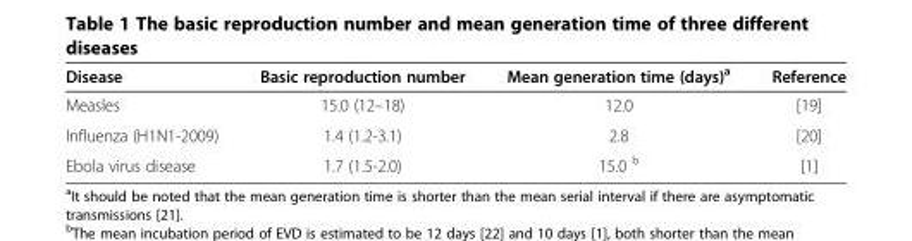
<table><thead><tr><td>Disease</td><td>Basic reproduction number</td><td>Mean generation time (days)<sup>a</sup></td><td>Reference</td></tr></thead><tbody><tr><td>Measles</td><td>15.0 (12–18)</td><td>12.0</td><td>[19]</td></tr><tr><td>Influenza (H1N1-2009)</td><td>1.4 (1.2-3.1)</td><td>2.8</td><td>[20]</td></tr><tr><td>Ebola virus disease</td><td>1.7 (1.5-2.0)</td><td>15.0 <sup>b</sup></td><td>[1]</td></tr></tbody></table>